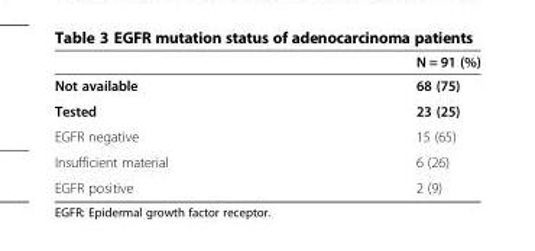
<table><thead><tr><td></td><td>N = 91 (%)</td></tr></thead><tbody><tr><td>Not available</td><td>68 (75)</td></tr><tr><td>Tested</td><td>23 (25)</td></tr><tr><td>EGFR negative</td><td>15 (65)</td></tr><tr><td>Insufficient material</td><td>6 (26)</td></tr><tr><td>EGFR positive</td><td>2 (9)</td></tr></tbody></table>